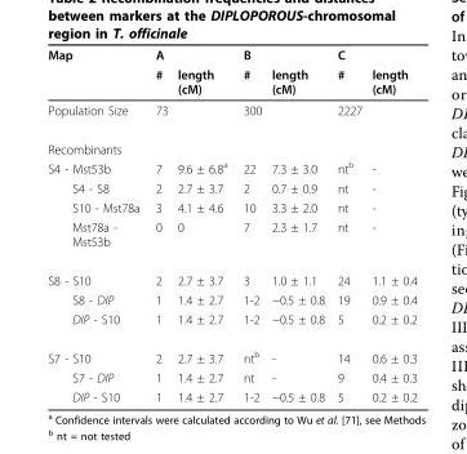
<table><thead><tr><td rowspan="2">Map</td><td rowspan="2">A #</td><td rowspan="2">length (cM)</td><td rowspan="2">B #</td><td rowspan="2">length (cM)</td><td rowspan="2">C #</td><td rowspan="2">length (cM)</td></tr><tr></tr></thead><tbody><tr><td>Population Size</td><td>73</td><td></td><td>300</td><td></td><td>2227</td><td></td></tr><tr><td colspan="7">Recombinants</td></tr><tr><td>S4 - Mst53b</td><td>7</td><td>9.6 ± 6.8<sup>a</sup></td><td>22</td><td>7.3 ± 3.0</td><td>nt<sup>b</sup></td><td>-</td></tr><tr><td>S4 - S8</td><td>2</td><td>2.7 ± 3.7</td><td>2</td><td>0.7 ± 0.9</td><td>nt</td><td>-</td></tr><tr><td>S10 - Mst78a</td><td>3</td><td>4.1 ± 4.6</td><td>10</td><td>3.3 ± 2.0</td><td>nt</td><td>-</td></tr><tr><td>Mst78a - Mst53b</td><td>0</td><td>0</td><td>7</td><td>2.3 ± 1.7</td><td>nt</td><td>-</td></tr><tr><td>S8 - S10</td><td>2</td><td>2.7 ± 3.7</td><td>3</td><td>1.0 ± 1.1</td><td>24</td><td>1.1 ± 0.4</td></tr><tr><td>S8 - DIP</td><td>1</td><td>1.4 ± 2.7</td><td>1-2</td><td>~0.5 ± 0.8</td><td>19</td><td>0.9 ± 0.4</td></tr><tr><td>DIP - S10</td><td>1</td><td>1.4 ± 2.7</td><td>1-2</td><td>~0.5 ± 0.8</td><td>5</td><td>0.2 ± 0.2</td></tr><tr><td>S7 - S10</td><td>2</td><td>2.7 ± 3.7</td><td>nt<sup>b</sup></td><td>-</td><td>14</td><td>0.6 ± 0.3</td></tr><tr><td>S7 - DIP</td><td>1</td><td>1.4 ± 2.7</td><td>nt</td><td>-</td><td>9</td><td>0.4 ± 0.3</td></tr><tr><td>DIP - S10</td><td>1</td><td>1.4 ± 2.7</td><td>1-2</td><td>~0.5 ± 0.8</td><td>5</td><td>0.2 ± 0.2</td></tr></tbody></table>